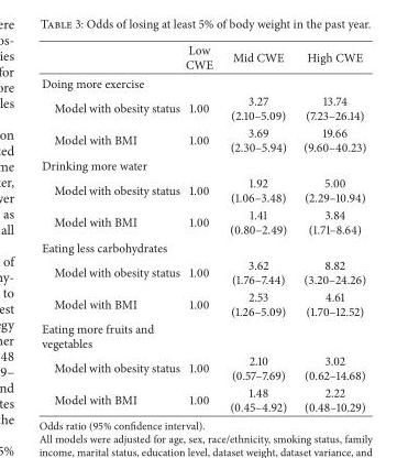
<table><thead><tr><td></td><td>Low CWE</td><td>Mid CWE</td><td>High CWE</td></tr></thead><tbody><tr><td colspan="4">Doing more exercise</td></tr><tr><td>Model with obesity status</td><td>1.00</td><td>3.27 (2.10–5.09)</td><td>13.74 (7.23–26.14)</td></tr><tr><td>Model with BMI</td><td>1.00</td><td>3.69 (2.30–5.94)</td><td>19.66 (9.60–40.23)</td></tr><tr><td colspan="4">Drinking more water</td></tr><tr><td>Model with obesity status</td><td>1.00</td><td>1.92 (1.06–3.48)</td><td>5.00 (2.29–10.94)</td></tr><tr><td>Model with BMI</td><td>1.00</td><td>1.41 (0.80–2.49)</td><td>3.84 (1.71–8.64)</td></tr><tr><td colspan="4">Eating less carbohydrates</td></tr><tr><td>Model with obesity status</td><td>1.00</td><td>3.62 (1.76–7.44)</td><td>8.82 (3.20–24.26)</td></tr><tr><td>Model with BMI</td><td>1.00</td><td>2.53 (1.26–5.09)</td><td>4.61 (1.70–12.52)</td></tr><tr><td colspan="4">Eating more fruits and vegetables</td></tr><tr><td>Model with obesity status</td><td>1.00</td><td>2.10 (0.57–7.69)</td><td>3.02 (0.62–14.68)</td></tr><tr><td>Model with BMI</td><td>1.00</td><td>1.48 (0.45–4.92)</td><td>2.22 (0.48–10.29)</td></tr></tbody></table>